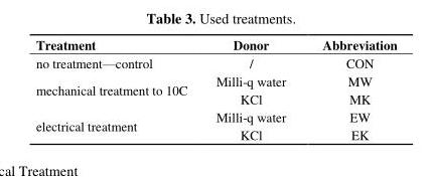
<table><thead><tr><td>Treatment</td><td>Donor</td><td>Abbreviation</td></tr></thead><tbody><tr><td>no treatment—control</td><td>/</td><td>CON</td></tr><tr><td rowspan="2">mechanical treatment to 10C</td><td>Milli-q water</td><td>MW</td></tr><tr><td>KCl</td><td>MK</td></tr><tr><td rowspan="2">electrical treatment</td><td>Milli-q water</td><td>EW</td></tr><tr><td>KCl</td><td>EK</td></tr></tbody></table>